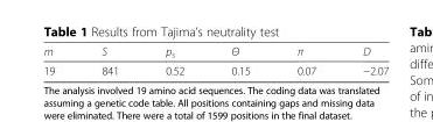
<table><thead><tr><td>m</td><td>S</td><td>p<sub>s</sub></td><td>Θ</td><td>π</td><td>D</td></tr></thead><tbody><tr><td>19</td><td>841</td><td>0.52</td><td>0.15</td><td>0.07</td><td>−2.07</td></tr></tbody></table>